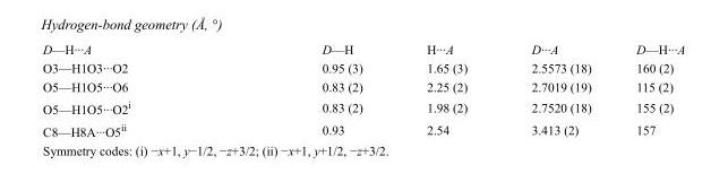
<table><tbody><tr><td>D—H···A</td><td>D—H</td><td>H···A</td><td>D···A</td><td>D—H···A</td></tr><tr><td>O3—H1O3···O2</td><td>0.95 (3)</td><td>1.65 (3)</td><td>2.5573 (18)</td><td>160 (2)</td></tr><tr><td>O5—H1O5···O6</td><td>0.83 (2)</td><td>2.25 (2)</td><td>2.7019 (19)</td><td>115 (2)</td></tr><tr><td>O5—H1O5···O2<sup>i</sup></td><td>0.83 (2)</td><td>1.98 (2)</td><td>2.7520 (18)</td><td>155 (2)</td></tr><tr><td>C8—H8A···O5<sup>ii</sup></td><td>0.93</td><td>2.54</td><td>3.413 (2)</td><td>157</td></tr></tbody></table>